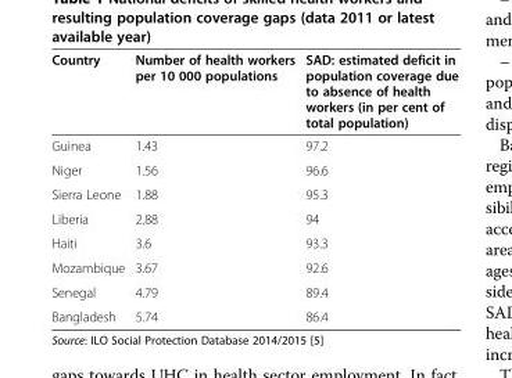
<table><thead><tr><td>Country</td><td>Number of health workers per 10 000 populations</td><td>SAD: estimated deficit in population coverage due to absence of health workers (in per cent of total population)</td></tr></thead><tbody><tr><td>Guinea</td><td>1.43</td><td>97.2</td></tr><tr><td>Niger</td><td>1.56</td><td>96.6</td></tr><tr><td>Sierra Leone</td><td>1.88</td><td>95.3</td></tr><tr><td>Liberia</td><td>2.88</td><td>94</td></tr><tr><td>Haiti</td><td>3.6</td><td>93.3</td></tr><tr><td>Mozambique</td><td>3.67</td><td>92.6</td></tr><tr><td>Senegal</td><td>4.79</td><td>89.4</td></tr><tr><td>Bangladesh</td><td>5.74</td><td>86.4</td></tr></tbody></table>